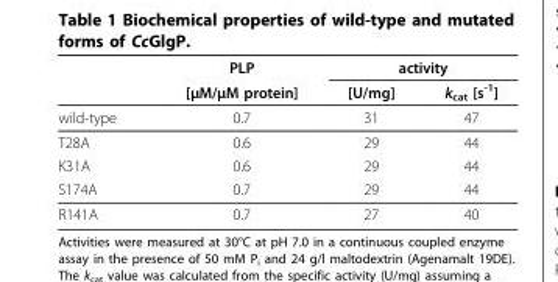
<table><thead><tr><td rowspan="2"></td><td rowspan="2">PLP [μM/μM protein]</td><td colspan="2">activity</td></tr><tr><td>[U/mg]</td><td>kcat [s-1]</td></tr></thead><tbody><tr><td>wild-type</td><td>0.7</td><td>31</td><td>47</td></tr><tr><td>T28A</td><td>0.6</td><td>29</td><td>44</td></tr><tr><td>K31A</td><td>0.6</td><td>29</td><td>44</td></tr><tr><td>S174A</td><td>0.7</td><td>29</td><td>44</td></tr><tr><td>R141A</td><td>0.7</td><td>27</td><td>40</td></tr></tbody></table>